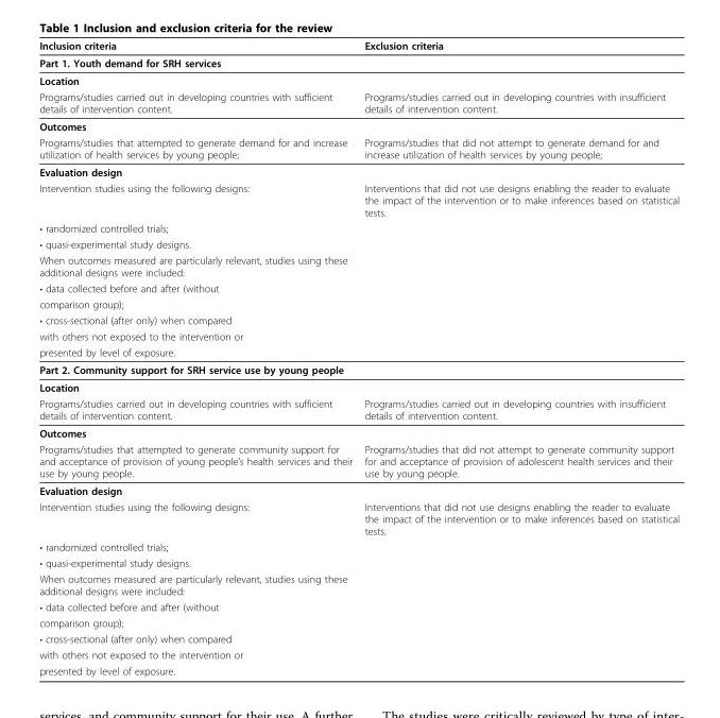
<table><thead><tr><td>Inclusion criteria</td><td>Exclusion criteria</td></tr></thead><tbody><tr><td colspan="2">Part 1. Youth demand for SRH services</td></tr><tr><td colspan="2">Location</td></tr><tr><td>Programs/studies carried out in developing countries with sufficient details of intervention content.</td><td>Programs/studies carried out in developing countries with insufficient details of intervention content.</td></tr><tr><td colspan="2">Outcomes</td></tr><tr><td>Programs/studies that attempted to generate demand for and increase utilization of health services by young people;</td><td>Programs/studies that did not attempt to generate demand for and increase utilization of health services by young people;</td></tr><tr><td colspan="2">Evaluation design</td></tr><tr><td>Intervention studies using the following designs:</td><td>Interventions that did not use designs enabling the reader to evaluate the impact of the intervention or to make inferences based on statistical tests.</td></tr><tr><td colspan="2">• randomized controlled trials;</td></tr><tr><td colspan="2">• quasi-experimental study designs.</td></tr><tr><td colspan="2">When outcomes measured are particularly relevant, studies using these additional designs were included:</td></tr><tr><td colspan="2">• data collected before and after (without</td></tr><tr><td colspan="2">comparison group);</td></tr><tr><td colspan="2">• cross-sectional (after only) when compared</td></tr><tr><td colspan="2">with others not exposed to the intervention or</td></tr><tr><td colspan="2">presented by level of exposure.</td></tr><tr><td colspan="2">Part 2. Community support for SRH service use by young people</td></tr><tr><td colspan="2">Location</td></tr><tr><td>Programs/studies carried out in developing countries with sufficient details of intervention content.</td><td>Programs/studies carried out in developing countries with insufficient details of intervention content.</td></tr><tr><td colspan="2">Outcomes</td></tr><tr><td>Programs/studies that attempted to generate community support for and acceptance of provision of young people’s health services and their use by young people.</td><td>Programs/studies that did not attempt to generate community support for and acceptance of provision of adolescent health services and their use by young people.</td></tr><tr><td colspan="2">Evaluation design</td></tr><tr><td>Intervention studies using the following designs:</td><td>Interventions that did not use designs enabling the reader to evaluate the impact of the intervention or to make inferences based on statistical tests.</td></tr><tr><td colspan="2">• randomized controlled trials;</td></tr><tr><td colspan="2">• quasi-experimental study designs.</td></tr><tr><td colspan="2">When outcomes measured are particularly relevant, studies using these additional designs were included:</td></tr><tr><td colspan="2">• data collected before and after (without</td></tr><tr><td colspan="2">comparison group);</td></tr><tr><td colspan="2">• cross-sectional (after only) when compared</td></tr><tr><td colspan="2">with others not exposed to the intervention or</td></tr><tr><td>presented by level of exposure.</td><td></td></tr></tbody></table>